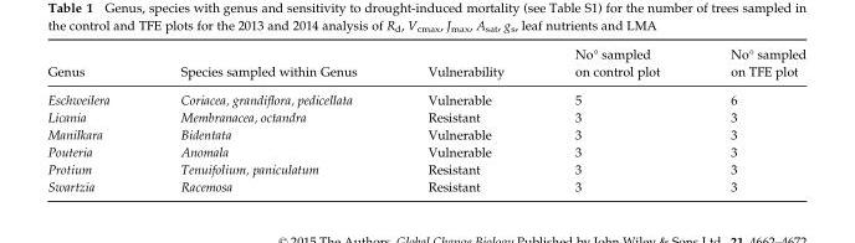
<table><thead><tr><td>Genus</td><td>Species sampled within Genus</td><td>Vulnerability</td><td>No° sampled on control plot</td><td>No° sampled on TFE plot</td></tr></thead><tbody><tr><td>Eschweilera</td><td>Coriacea, grandiflora, pedicellata</td><td>Vulnerable</td><td>5</td><td>6</td></tr><tr><td>Licania</td><td>Membranacea, octandra</td><td>Resistant</td><td>3</td><td>3</td></tr><tr><td>Manilkara</td><td>Bidentata</td><td>Vulnerable</td><td>3</td><td>3</td></tr><tr><td>Pouteria</td><td>Anomala</td><td>Vulnerable</td><td>3</td><td>3</td></tr><tr><td>Protium</td><td>Tenuifolium, paniculatum</td><td>Resistant</td><td>3</td><td>3</td></tr><tr><td>Swartzia</td><td>Racemosa</td><td>Resistant</td><td>3</td><td>3</td></tr></tbody></table>